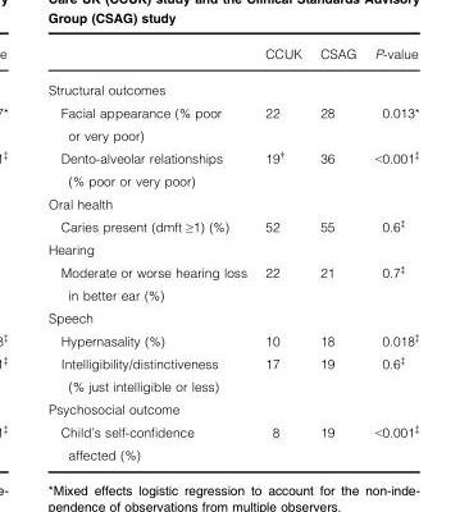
<table><thead><tr><td></td><td>CCUK</td><td>CSAG</td><td>P-value</td></tr></thead><tbody><tr><td colspan="4">Structural outcomes</td></tr><tr><td>Facial appearance (% poor or very poor)</td><td>22</td><td>28</td><td>0.013*</td></tr><tr><td>Dento-alveolar relationships (% poor or very poor)</td><td>19†</td><td>36</td><td>&lt;0.001‡</td></tr><tr><td colspan="4">Oral health</td></tr><tr><td>Caries present (dmft ≥1) (%)</td><td>52</td><td>55</td><td>0.6‡</td></tr><tr><td colspan="4">Hearing</td></tr><tr><td>Moderate or worse hearing loss in better ear (%)</td><td>22</td><td>21</td><td>0.7‡</td></tr><tr><td colspan="4">Speech</td></tr><tr><td>Hypernasality (%)</td><td>10</td><td>18</td><td>0.018‡</td></tr><tr><td>Intelligibility/distinctiveness (% just intelligible or less)</td><td>17</td><td>19</td><td>0.6‡</td></tr><tr><td colspan="4">Psychosocial outcome</td></tr><tr><td>Child’s self-confidence affected (%)</td><td>8</td><td>19</td><td>&lt;0.001‡</td></tr></tbody></table>